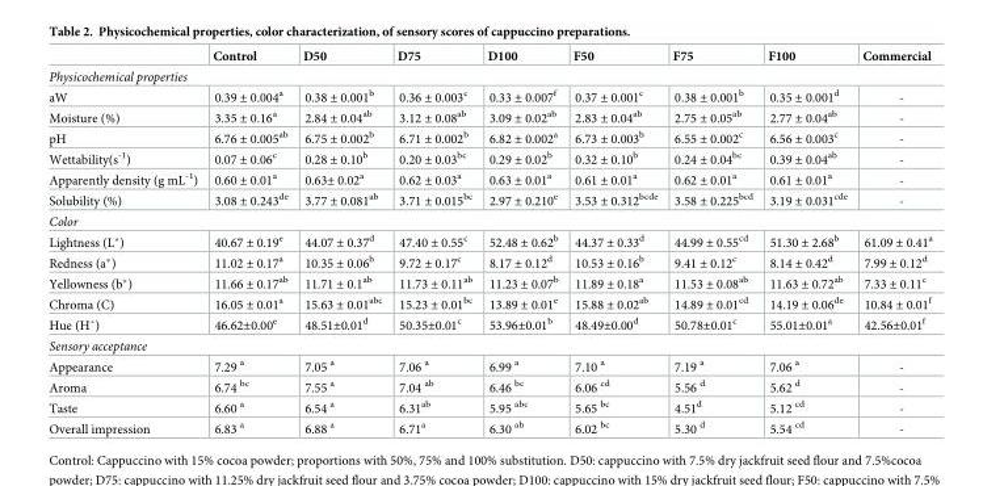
<table><thead><tr><td></td><td>Control</td><td>D50</td><td>D75</td><td>D100</td><td>F50</td><td>F75</td><td>F100</td><td>Commercial</td></tr></thead><tbody><tr><td colspan="9">Physicochemical properties</td></tr><tr><td>aW</td><td>0.39 ± 0.004<sup>a</sup></td><td>0.38 ± 0.001<sup>b</sup></td><td>0.36 ± 0.003<sup>c</sup></td><td>0.33 ± 0.007<sup>f</sup></td><td>0.37 ± 0.001<sup>c</sup></td><td>0.38 ± 0.001<sup>b</sup></td><td>0.35 ± 0.001<sup>d</sup></td><td>-</td></tr><tr><td>Moisture (%)</td><td>3.35 ± 0.16<sup>a</sup></td><td>2.84 ± 0.04<sup>ab</sup></td><td>3.12 ± 0.08<sup>ab</sup></td><td>3.09 ± 0.02<sup>ab</sup></td><td>2.83 ± 0.04<sup>ab</sup></td><td>2.75 ± 0.05<sup>ab</sup></td><td>2.77 ± 0.04<sup>ab</sup></td><td>-</td></tr><tr><td>pH</td><td>6.76 ± 0.005<sup>ab</sup></td><td>6.75 ± 0.002<sup>b</sup></td><td>6.71 ± 0.002<sup>b</sup></td><td>6.82 ± 0.002<sup>a</sup></td><td>6.73 ± 0.003<sup>b</sup></td><td>6.55 ± 0.002<sup>c</sup></td><td>6.56 ± 0.003<sup>c</sup></td><td>-</td></tr><tr><td>Wettability(s<sup>-1</sup>)</td><td>0.07 ± 0.06<sup>c</sup></td><td>0.28 ± 0.10<sup>b</sup></td><td>0.20 ± 0.03<sup>bc</sup></td><td>0.29 ± 0.02<sup>b</sup></td><td>0.32 ± 0.10<sup>b</sup></td><td>0.24 ± 0.04<sup>bc</sup></td><td>0.39 ± 0.04<sup>ab</sup></td><td>-</td></tr><tr><td>Apparently density (g mL<sup>-1</sup>)</td><td>0.60 ± 0.01<sup>a</sup></td><td>0.63± 0.02<sup>a</sup></td><td>0.62 ± 0.03<sup>a</sup></td><td>0.63 ± 0.01<sup>a</sup></td><td>0.61 ± 0.01<sup>a</sup></td><td>0.62 ± 0.01<sup>a</sup></td><td>0.61 ± 0.01<sup>a</sup></td><td>-</td></tr><tr><td>Solubility (%)</td><td>3.08 ± 0.243<sup>de</sup></td><td>3.77 ± 0.081<sup>ab</sup></td><td>3.71 ± 0.015<sup>bc</sup></td><td>2.97 ± 0.210<sup>e</sup></td><td>3.53 ± 0.312<sup>bcde</sup></td><td>3.58 ± 0.225<sup>bcd</sup></td><td>3.19 ± 0.031<sup>cde</sup></td><td>-</td></tr><tr><td colspan="9">Color</td></tr><tr><td>Lightness (L*)</td><td>40.67 ± 0.19<sup>e</sup></td><td>44.07 ± 0.37<sup>d</sup></td><td>47.40 ± 0.55<sup>c</sup></td><td>52.48 ± 0.62<sup>b</sup></td><td>44.37 ± 0.33<sup>d</sup></td><td>44.99 ± 0.55<sup>cd</sup></td><td>51.30 ± 2.68<sup>b</sup></td><td>61.09 ± 0.41<sup>a</sup></td></tr><tr><td>Redness (a*)</td><td>11.02 ± 0.17<sup>a</sup></td><td>10.35 ± 0.06<sup>b</sup></td><td>9.72 ± 0.17<sup>c</sup></td><td>8.17 ± 0.12<sup>d</sup></td><td>10.53 ± 0.16<sup>b</sup></td><td>9.41 ± 0.12<sup>c</sup></td><td>8.14 ± 0.42<sup>d</sup></td><td>7.99 ± 0.12<sup>d</sup></td></tr><tr><td>Yellowness (b*)</td><td>11.66 ± 0.17<sup>ab</sup></td><td>11.71 ± 0.1<sup>ab</sup></td><td>11.73 ± 0.11<sup>ab</sup></td><td>11.23 ± 0.07<sup>b</sup></td><td>11.89 ± 0.18<sup>a</sup></td><td>11.53 ± 0.08<sup>ab</sup></td><td>11.63 ± 0.72<sup>ab</sup></td><td>7.33 ± 0.11<sup>c</sup></td></tr><tr><td>Chroma (C)</td><td>16.05 ± 0.01<sup>a</sup></td><td>15.63 ± 0.01<sup>abc</sup></td><td>15.23 ± 0.01<sup>bc</sup></td><td>13.89 ± 0.01<sup>e</sup></td><td>15.88 ± 0.02<sup>ab</sup></td><td>14.89 ± 0.01<sup>cd</sup></td><td>14.19 ± 0.06<sup>de</sup></td><td>10.84 ± 0.01<sup>f</sup></td></tr><tr><td>Hue (H˚)</td><td>46.62±0.00<sup>e</sup></td><td>48.51±0.01<sup>d</sup></td><td>50.35±0.01<sup>c</sup></td><td>53.96±0.01<sup>b</sup></td><td>48.49±0.00<sup>d</sup></td><td>50.78±0.01<sup>c</sup></td><td>55.01±0.01<sup>a</sup></td><td>42.56±0.01<sup>f</sup></td></tr><tr><td colspan="9">Sensory acceptance</td></tr><tr><td>Appearance</td><td>7.29 <sup>a</sup></td><td>7.05 <sup>a</sup></td><td>7.06 <sup>a</sup></td><td>6.99 <sup>a</sup></td><td>7.10 <sup>a</sup></td><td>7.19 <sup>a</sup></td><td>7.06 <sup>a</sup></td><td>-</td></tr><tr><td>Aroma</td><td>6.74 <sup>bc</sup></td><td>7.55 <sup>a</sup></td><td>7.04 <sup>ab</sup></td><td>6.46 <sup>bc</sup></td><td>6.06 <sup>cd</sup></td><td>5.56 <sup>d</sup></td><td>5.62 <sup>d</sup></td><td>-</td></tr><tr><td>Taste</td><td>6.60 <sup>a</sup></td><td>6.54 <sup>a</sup></td><td>6.31<sup>ab</sup></td><td>5.95 <sup>abc</sup></td><td>5.65 <sup>bc</sup></td><td>4.51<sup>d</sup></td><td>5.12 <sup>cd</sup></td><td>-</td></tr><tr><td>Overall impression</td><td>6.83 <sup>a</sup></td><td>6.88 <sup>a</sup></td><td>6.71<sup>a</sup></td><td>6.30 <sup>ab</sup></td><td>6.02 <sup>bc</sup></td><td>5.30 <sup>d</sup></td><td>5.54 <sup>cd</sup></td><td>-</td></tr></tbody></table>